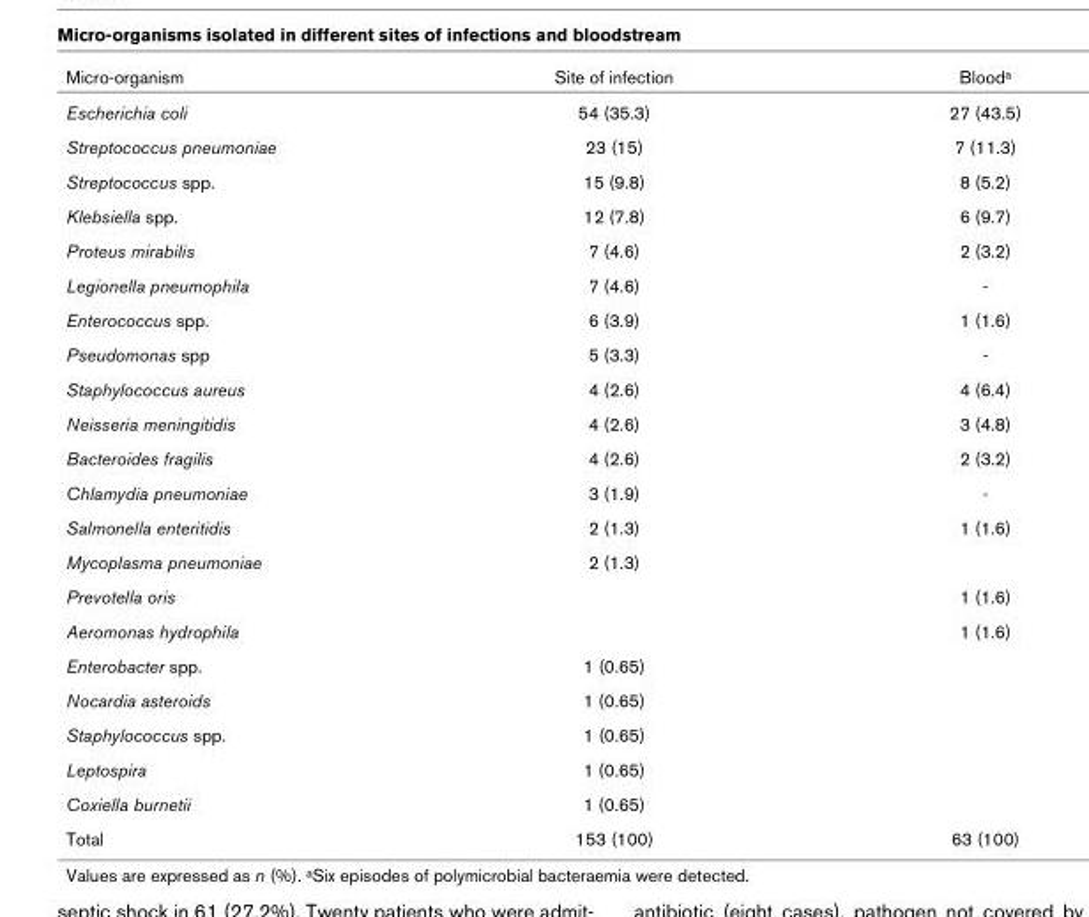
<table><thead><tr><td>Micro-organism</td><td>Site of infection</td><td>Blooda</td></tr></thead><tbody><tr><td>Escherichia coli</td><td>54 (35.3)</td><td>27 (43.5)</td></tr><tr><td>Streptococcus pneumoniae</td><td>23 (15)</td><td>7 (11.3)</td></tr><tr><td>Streptococcus spp.</td><td>15 (9.8)</td><td>8 (5.2)</td></tr><tr><td>Klebsiella spp.</td><td>12 (7.8)</td><td>6 (9.7)</td></tr><tr><td>Proteus mirabilis</td><td>7 (4.6)</td><td>2 (3.2)</td></tr><tr><td>Legionella pneumophila</td><td>7 (4.6)</td><td>-</td></tr><tr><td>Enterococcus spp.</td><td>6 (3.9)</td><td>1 (1.6)</td></tr><tr><td>Pseudomonas spp</td><td>5 (3.3)</td><td>-</td></tr><tr><td>Staphylococcus aureus</td><td>4 (2.6)</td><td>4 (6.4)</td></tr><tr><td>Neisseria meningitidis</td><td>4 (2.6)</td><td>3 (4.8)</td></tr><tr><td>Bacteroides fragilis</td><td>4 (2.6)</td><td>2 (3.2)</td></tr><tr><td>Chlamydia pneumoniae</td><td>3 (1.9)</td><td>-</td></tr><tr><td>Salmonella enteritidis</td><td>2 (1.3)</td><td>1 (1.6)</td></tr><tr><td>Mycoplasma pneumoniae</td><td>2 (1.3)</td><td></td></tr><tr><td>Prevotella oris</td><td></td><td>1 (1.6)</td></tr><tr><td>Aeromonas hydrophila</td><td></td><td>1 (1.6)</td></tr><tr><td>Enterobacter spp.</td><td>1 (0.65)</td><td></td></tr><tr><td>Nocardia asteroids</td><td>1 (0.65)</td><td></td></tr><tr><td>Staphylococcus spp.</td><td>1 (0.65)</td><td></td></tr><tr><td>Leptospira</td><td>1 (0.65)</td><td></td></tr><tr><td>Coxiella burnetii</td><td>1 (0.65)</td><td></td></tr><tr><td>Total</td><td>153 (100)</td><td>63 (100)</td></tr></tbody></table>